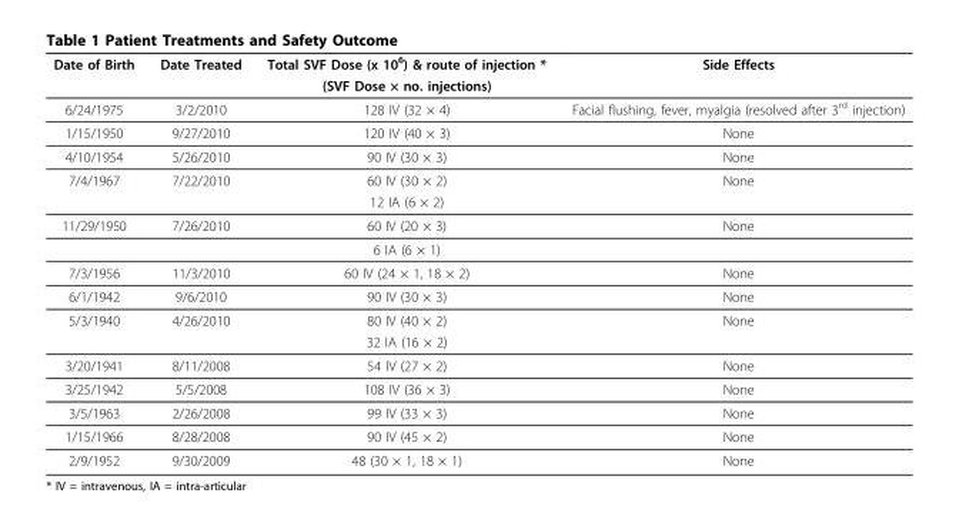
<table><thead><tr><td rowspan="2">Date of Birth</td><td rowspan="2">Date Treated</td><td rowspan="2">Total SVF Dose (x 10<sup>6</sup>) &amp; route of injection * (SVF Dose × no. injections)</td><td rowspan="2">Side Effects</td></tr><tr></tr></thead><tbody><tr><td>6/24/1975</td><td>3/2/2010</td><td>128 IV (32 × 4)</td><td>Facial flushing, fever, myalgia (resolved after 3<sup>rd</sup> injection)</td></tr><tr><td>1/15/1950</td><td>9/27/2010</td><td>120 IV (40 × 3)</td><td>None</td></tr><tr><td>4/10/1954</td><td>5/26/2010</td><td>90 IV (30 × 3)</td><td>None</td></tr><tr><td rowspan="2">7/4/1967</td><td>7/22/2010</td><td>60 IV (30 × 2)</td><td>None</td></tr><tr><td></td><td>12 IA (6 × 2)</td><td></td></tr><tr><td rowspan="2">11/29/1950</td><td>7/26/2010</td><td>60 IV (20 × 3)</td><td>None</td></tr><tr><td></td><td>6 IA (6 × 1)</td><td></td></tr><tr><td>7/3/1956</td><td>11/3/2010</td><td>60 IV (24 × 1, 18 × 2)</td><td>None</td></tr><tr><td>6/1/1942</td><td>9/6/2010</td><td>90 IV (30 × 3)</td><td>None</td></tr><tr><td rowspan="2">5/3/1940</td><td>4/26/2010</td><td>80 IV (40 × 2)</td><td>None</td></tr><tr><td></td><td>32 IA (16 × 2)</td><td></td></tr><tr><td>3/20/1941</td><td>8/11/2008</td><td>54 IV (27 × 2)</td><td>None</td></tr><tr><td>3/25/1942</td><td>5/5/2008</td><td>108 IV (36 × 3)</td><td>None</td></tr><tr><td>3/5/1963</td><td>2/26/2008</td><td>99 IV (33 × 3)</td><td>None</td></tr><tr><td>1/15/1966</td><td>8/28/2008</td><td>90 IV (45 × 2)</td><td>None</td></tr><tr><td>2/9/1952</td><td>9/30/2009</td><td>48 (30 × 1, 18 × 1)</td><td>None</td></tr></tbody></table>